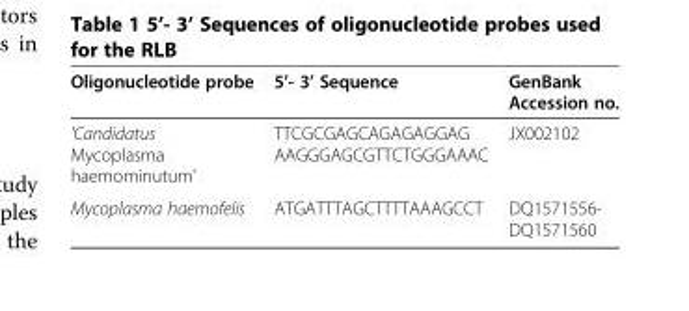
<table><thead><tr><td>Oligonucleotide probe</td><td>5’- 3’ Sequence</td><td>GenBank Accession no.</td></tr></thead><tbody><tr><td>&#x27;Candidatus Mycoplasma haemominutum&#x27;</td><td>TTCGCGAGCAGAGAGGAG AAGGGAGCGTTCTGGGAAAC</td><td>JX002102</td></tr><tr><td>Mycoplasma haemofelis</td><td>ATGATTTAGCTTTTAAAGCCT</td><td>DQ1571556- DQ1571560</td></tr></tbody></table>